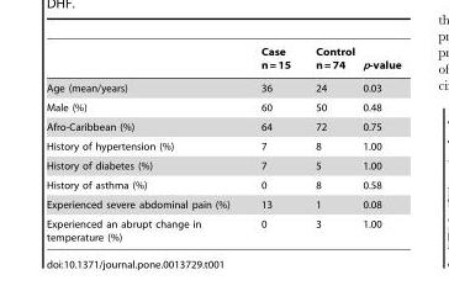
<table><thead><tr><td></td><td>Case n = 15</td><td>Control n = 74</td><td>p-value</td></tr></thead><tbody><tr><td>Age (mean/years)</td><td>36</td><td>24</td><td>0.03</td></tr><tr><td>Male (%)</td><td>60</td><td>50</td><td>0.48</td></tr><tr><td>Afro-Caribbean (%)</td><td>64</td><td>72</td><td>0.75</td></tr><tr><td>History of hypertension (%)</td><td>7</td><td>8</td><td>1.00</td></tr><tr><td>History of diabetes (%)</td><td>7</td><td>5</td><td>1.00</td></tr><tr><td>History of asthma (%)</td><td>0</td><td>8</td><td>0.58</td></tr><tr><td>Experienced severe abdominal pain (%)</td><td>13</td><td>1</td><td>0.08</td></tr><tr><td>Experienced an abrupt change in temperature (%)</td><td>0</td><td>3</td><td>1.00</td></tr></tbody></table>